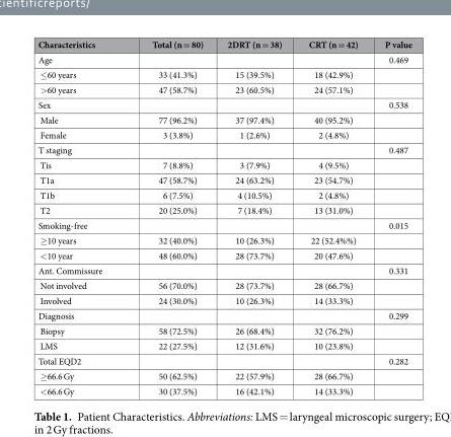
<table><thead><tr><td>Characteristics</td><td>Total (n = 80)</td><td>2DRT (n = 38)</td><td>CRT (n = 42)</td><td>P value</td></tr></thead><tbody><tr><td>Age</td><td></td><td></td><td></td><td>0.469</td></tr><tr><td>≤60 years</td><td>33 (41.3%)</td><td>15 (39.5%)</td><td>18 (42.9%)</td><td></td></tr><tr><td>&gt;60 years</td><td>47 (58.7%)</td><td>23 (60.5%)</td><td>24 (57.1%)</td><td></td></tr><tr><td>Sex</td><td></td><td></td><td></td><td>0.538</td></tr><tr><td>Male</td><td>77 (96.2%)</td><td>37 (97.4%)</td><td>40 (95.2%)</td><td></td></tr><tr><td>Female</td><td>3 (3.8%)</td><td>1 (2.6%)</td><td>2 (4.8%)</td><td></td></tr><tr><td>T staging</td><td></td><td></td><td></td><td>0.487</td></tr><tr><td>Tis</td><td>7 (8.8%)</td><td>3 (7.9%)</td><td>4 (9.5%)</td><td></td></tr><tr><td>T1a</td><td>47 (58.7%)</td><td>24 (63.2%)</td><td>23 (54.7%)</td><td></td></tr><tr><td>T1b</td><td>6 (7.5%)</td><td>4 (10.5%)</td><td>2 (4.8%)</td><td></td></tr><tr><td>T2</td><td>20 (25.0%)</td><td>7 (18.4%)</td><td>13 (31.0%)</td><td></td></tr><tr><td>Smoking-free</td><td></td><td></td><td></td><td>0.015</td></tr><tr><td>≥10 years</td><td>32 (40.0%)</td><td>10 (26.3%)</td><td>22 (52.4%%)</td><td></td></tr><tr><td>&lt;10 year</td><td>48 (60.0%)</td><td>28 (73.7%)</td><td>20 (47.6%)</td><td></td></tr><tr><td>Ant. Commissure</td><td></td><td></td><td></td><td>0.331</td></tr><tr><td>Not involved</td><td>56 (70.0%)</td><td>28 (73.7%)</td><td>28 (66.7%)</td><td></td></tr><tr><td>Involved</td><td>24 (30.0%)</td><td>10 (26.3%)</td><td>14 (33.3%)</td><td></td></tr><tr><td>Diagnosis</td><td></td><td></td><td></td><td>0.299</td></tr><tr><td>Biopsy</td><td>58 (72.5%)</td><td>26 (68.4%)</td><td>32 (76.2%)</td><td></td></tr><tr><td>LMS</td><td>22 (27.5%)</td><td>12 (31.6%)</td><td>10 (23.8%)</td><td></td></tr><tr><td>Total EQD2</td><td></td><td></td><td></td><td>0.282</td></tr><tr><td>≥66.6 Gy</td><td>50 (62.5%)</td><td>22 (57.9%)</td><td>28 (66.7%)</td><td></td></tr><tr><td>&lt;66.6 Gy</td><td>30 (37.5%)</td><td>16 (42.1%)</td><td>14 (33.3%)</td><td></td></tr></tbody></table>